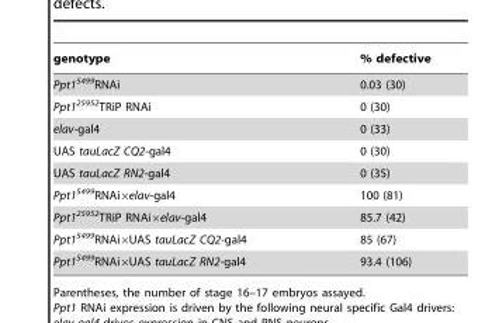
<table><thead><tr><td>genotype</td><td>% defective</td></tr></thead><tbody><tr><td>Ppt1<sup>5499</sup>RNAi</td><td>0.03 (30)</td></tr><tr><td>Ppt1<sup>25952</sup>TRiP RNAi</td><td>0 (30)</td></tr><tr><td>elav-gal4</td><td>0 (33)</td></tr><tr><td>UAS tauLacZ CQ2-gal4</td><td>0 (30)</td></tr><tr><td>UAS tauLacZ RN2-gal4</td><td>0 (35)</td></tr><tr><td>Ppt1<sup>5499</sup>RNAi×elav-gal4</td><td>100 (81)</td></tr><tr><td>Ppt1<sup>25952</sup>TRiP RNAi×elav-gal4</td><td>85.7 (42)</td></tr><tr><td>Ppt1<sup>5499</sup>RNAi×UAS tauLacZ CQ2-gal4</td><td>85 (67)</td></tr><tr><td>Ppt1<sup>5499</sup>RNAi×UAS tauLacZ RN2-gal4</td><td>93.4 (106)</td></tr></tbody></table>